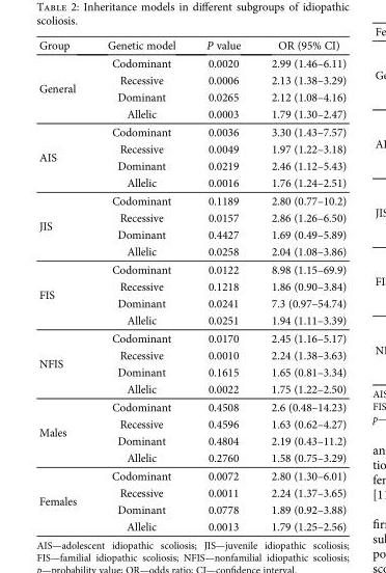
<table><thead><tr><td>Group</td><td>Genetic model</td><td>P value</td><td>OR (95% CI)</td></tr></thead><tbody><tr><td rowspan="4">General</td><td>Codominant</td><td>0.0020</td><td>2.99 (1.46–6.11)</td></tr><tr><td>Recessive</td><td>0.0006</td><td>2.13 (1.38–3.29)</td></tr><tr><td>Dominant</td><td>0.0265</td><td>2.12 (1.08–4.16)</td></tr><tr><td>Allelic</td><td>0.0003</td><td>1.79 (1.30–2.47)</td></tr><tr><td rowspan="4">AIS</td><td>Codominant</td><td>0.0036</td><td>3.30 (1.43–7.57)</td></tr><tr><td>Recessive</td><td>0.0049</td><td>1.97 (1.22–3.18)</td></tr><tr><td>Dominant</td><td>0.0219</td><td>2.46 (1.12–5.43)</td></tr><tr><td>Allelic</td><td>0.0016</td><td>1.76 (1.24–2.51)</td></tr><tr><td rowspan="4">JIS</td><td>Codominant</td><td>0.1189</td><td>2.80 (0.77–10.2)</td></tr><tr><td>Recessive</td><td>0.0157</td><td>2.86 (1.26–6.50)</td></tr><tr><td>Dominant</td><td>0.4427</td><td>1.69 (0.49–5.89)</td></tr><tr><td>Allelic</td><td>0.0258</td><td>2.04 (1.08–3.86)</td></tr><tr><td rowspan="4">FIS</td><td>Codominant</td><td>0.0122</td><td>8.98 (1.15–69.9)</td></tr><tr><td>Recessive</td><td>0.1218</td><td>1.86 (0.90–3.84)</td></tr><tr><td>Dominant</td><td>0.0241</td><td>7.3 (0.97–54.74)</td></tr><tr><td>Allelic</td><td>0.0251</td><td>1.94 (1.11–3.39)</td></tr><tr><td rowspan="4">NFIS</td><td>Codominant</td><td>0.0170</td><td>2.45 (1.16–5.17)</td></tr><tr><td>Recessive</td><td>0.0010</td><td>2.24 (1.38–3.63)</td></tr><tr><td>Dominant</td><td>0.1615</td><td>1.65 (0.81–3.34)</td></tr><tr><td>Allelic</td><td>0.0022</td><td>1.75 (1.22–2.50)</td></tr><tr><td rowspan="4">Males</td><td>Codominant</td><td>0.4508</td><td>2.6 (0.48–14.23)</td></tr><tr><td>Recessive</td><td>0.4596</td><td>1.63 (0.62–4.27)</td></tr><tr><td>Dominant</td><td>0.4804</td><td>2.19 (0.43–11.2)</td></tr><tr><td>Allelic</td><td>0.2760</td><td>1.58 (0.75–3.29)</td></tr><tr><td rowspan="4">Females</td><td>Codominant</td><td>0.0072</td><td>2.80 (1.30–6.01)</td></tr><tr><td>Recessive</td><td>0.0011</td><td>2.24 (1.37–3.65)</td></tr><tr><td>Dominant</td><td>0.0778</td><td>1.89 (0.92–3.88)</td></tr><tr><td>Allelic</td><td>0.0013</td><td>1.79 (1.25–2.56)</td></tr></tbody></table>